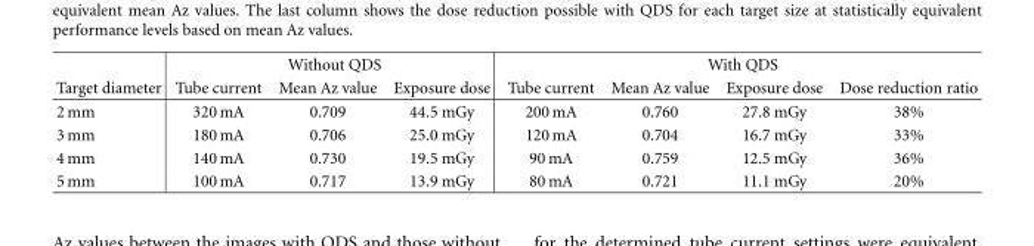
<table><thead><tr><td rowspan="2">Target diameter</td><td colspan="3">Without QDS</td><td colspan="4">With QDS</td></tr><tr><td>Tube current</td><td>Mean Az value</td><td>Exposure dose</td><td>Tube current</td><td>Mean Az value</td><td>Exposure dose</td><td>Dose reduction ratio</td></tr></thead><tbody><tr><td>2 mm</td><td>320 mA</td><td>0.709</td><td>44.5 mGy</td><td>200 mA</td><td>0.760</td><td>27.8 mGy</td><td>38%</td></tr><tr><td>3 mm</td><td>180 mA</td><td>0.706</td><td>25.0 mGy</td><td>120 mA</td><td>0.704</td><td>16.7 mGy</td><td>33%</td></tr><tr><td>4 mm</td><td>140 mA</td><td>0.730</td><td>19.5 mGy</td><td>90 mA</td><td>0.759</td><td>12.5 mGy</td><td>36%</td></tr><tr><td>5 mm</td><td>100 mA</td><td>0.717</td><td>13.9 mGy</td><td>80 mA</td><td>0.721</td><td>11.1 mGy</td><td>20%</td></tr></tbody></table>